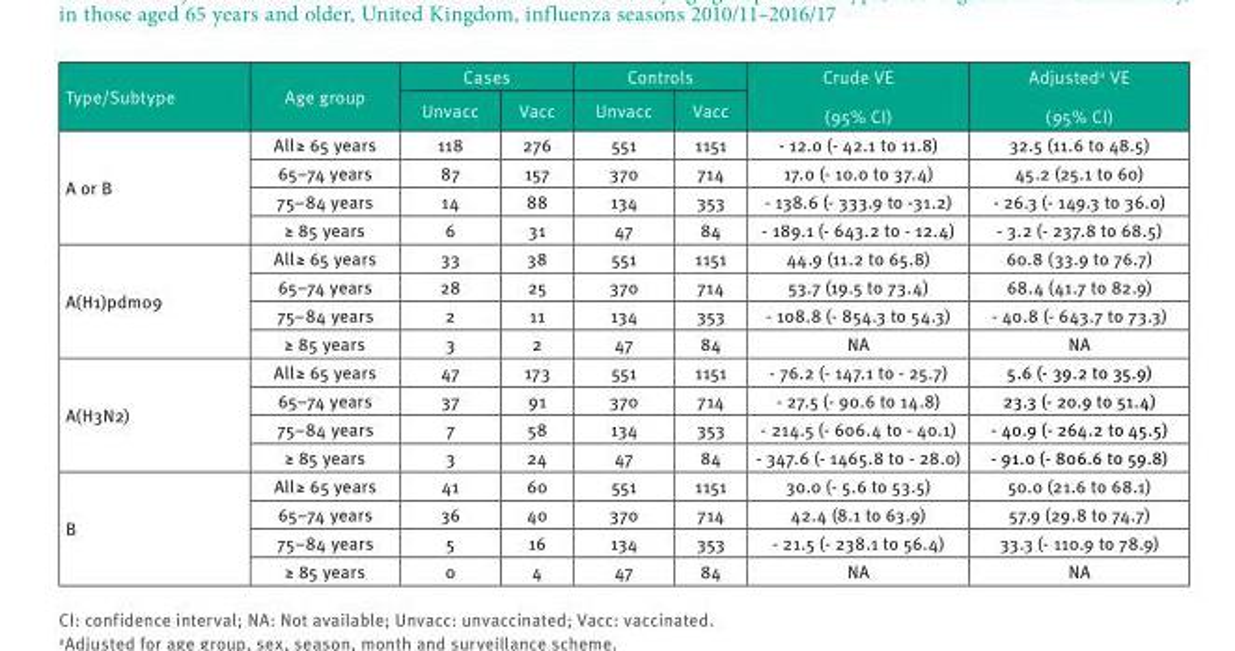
<table><thead><tr><td rowspan="2">Type/Subtype</td><td rowspan="2">Age group</td><td colspan="2">Cases</td><td colspan="2">Controls</td><td rowspan="2">Crude VE (95% CI)</td><td rowspan="2">Adjusted<sup>a</sup> VE (95% CI)</td></tr><tr><td>Unvacc</td><td>Vacc</td><td>Unvacc</td><td>Vacc</td></tr></thead><tbody><tr><td rowspan="4">A or B</td><td>All ≥ 65 years</td><td>118</td><td>276</td><td>551</td><td>1151</td><td>- 12.0 (- 42.1 to 11.8)</td><td>32.5 (11.6 to 48.5)</td></tr><tr><td>65–74 years</td><td>87</td><td>157</td><td>370</td><td>714</td><td>17.0 (- 10.0 to 37.4)</td><td>45.2 (25.1 to 60)</td></tr><tr><td>75–84 years</td><td>14</td><td>88</td><td>134</td><td>353</td><td>- 138.6 (- 333.9 to -31.2)</td><td>- 26.3 (- 149.3 to 36.0)</td></tr><tr><td>≥ 85 years</td><td>6</td><td>31</td><td>47</td><td>84</td><td>- 189.1 (- 643.2 to - 12.4)</td><td>- 3.2 (- 237.8 to 68.5)</td></tr><tr><td rowspan="4">A(H1)pdm09</td><td>All ≥ 65 years</td><td>33</td><td>38</td><td>551</td><td>1151</td><td>44.9 (11.2 to 65.8)</td><td>60.8 (33.9 to 76.7)</td></tr><tr><td>65–74 years</td><td>28</td><td>25</td><td>370</td><td>714</td><td>53.7 (19.5 to 73.4)</td><td>68.4 (41.7 to 82.9)</td></tr><tr><td>75–84 years</td><td>2</td><td>11</td><td>134</td><td>353</td><td>- 108.8 (- 854.3 to 54.3)</td><td>- 40.8 (- 643.7 to 73.3)</td></tr><tr><td>≥ 85 years</td><td>3</td><td>2</td><td>47</td><td>84</td><td>NA</td><td>NA</td></tr><tr><td rowspan="4">A(H3N2)</td><td>All ≥ 65 years</td><td>47</td><td>173</td><td>551</td><td>1151</td><td>- 76.2 (- 147.1 to - 25.7)</td><td>5.6 (- 39.2 to 35.9)</td></tr><tr><td>65–74 years</td><td>37</td><td>91</td><td>370</td><td>714</td><td>- 27.5 (- 90.6 to 14.8)</td><td>23.3 (- 20.9 to 51.4)</td></tr><tr><td>75–84 years</td><td>7</td><td>58</td><td>134</td><td>353</td><td>- 214.5 (- 606.4 to - 40.1)</td><td>- 40.9 (- 264.2 to 45.5)</td></tr><tr><td>≥ 85 years</td><td>3</td><td>24</td><td>47</td><td>84</td><td>- 347.6 (- 1465.8 to - 28.0)</td><td>- 91.0 (- 806.6 to 59.8)</td></tr><tr><td rowspan="4">B</td><td>All ≥ 65 years</td><td>41</td><td>60</td><td>551</td><td>1151</td><td>30.0 (- 5.6 to 53.5)</td><td>50.0 (21.6 to 68.1)</td></tr><tr><td>65–74 years</td><td>36</td><td>40</td><td>370</td><td>714</td><td>42.4 (8.1 to 63.9)</td><td>57.9 (29.8 to 74.7)</td></tr><tr><td>75–84 years</td><td>5</td><td>16</td><td>134</td><td>353</td><td>- 21.5 (- 238.1 to 56.4)</td><td>33.3 (- 110.9 to 78.9)</td></tr><tr><td>≥ 85 years</td><td>0</td><td>4</td><td>47</td><td>84</td><td>NA</td><td>NA</td></tr></tbody></table>